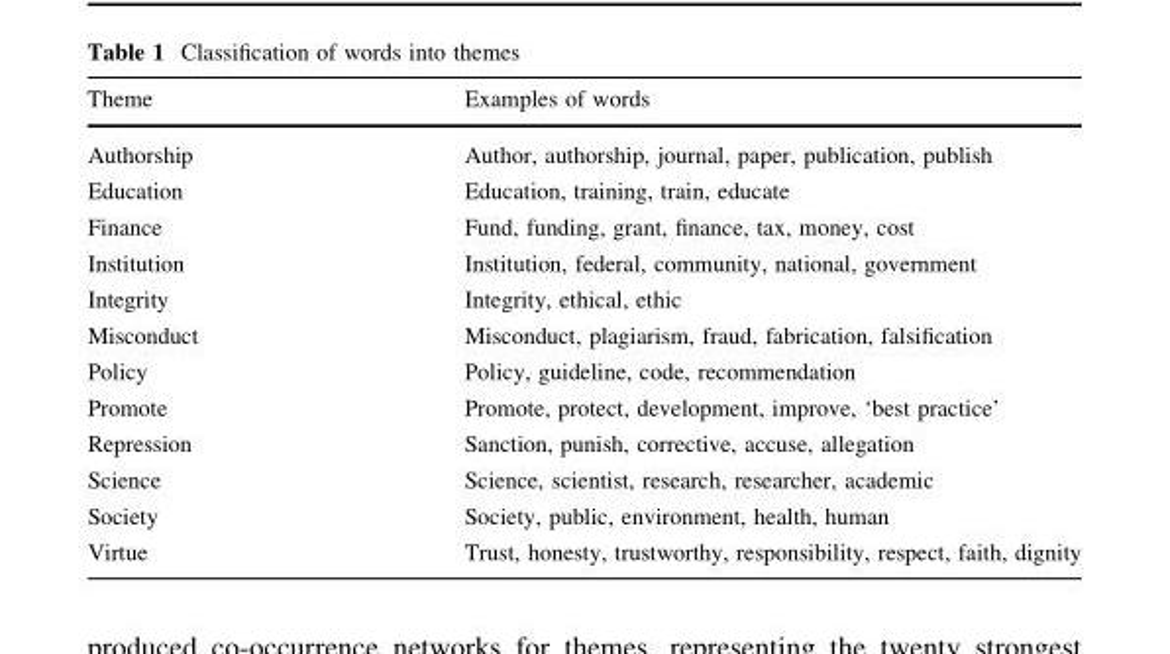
<table><thead><tr><td>Theme</td><td>Examples of words</td></tr></thead><tbody><tr><td>Authorship</td><td>Author, authorship, journal, paper, publication, publish</td></tr><tr><td>Education</td><td>Education, training, train, educate</td></tr><tr><td>Finance</td><td>Fund, funding, grant, finance, tax, money, cost</td></tr><tr><td>Institution</td><td>Institution, federal, community, national, government</td></tr><tr><td>Integrity</td><td>Integrity, ethical, ethic</td></tr><tr><td>Misconduct</td><td>Misconduct, plagiarism, fraud, fabrication, falsification</td></tr><tr><td>Policy</td><td>Policy, guideline, code, recommendation</td></tr><tr><td>Promote</td><td>Promote, protect, development, improve, ‘best practice’</td></tr><tr><td>Repression</td><td>Sanction, punish, corrective, accuse, allegation</td></tr><tr><td>Science</td><td>Science, scientist, research, researcher, academic</td></tr><tr><td>Society</td><td>Society, public, environment, health, human</td></tr><tr><td>Virtue</td><td>Trust, honesty, trustworthy, responsibility, respect, faith, dignity</td></tr></tbody></table>